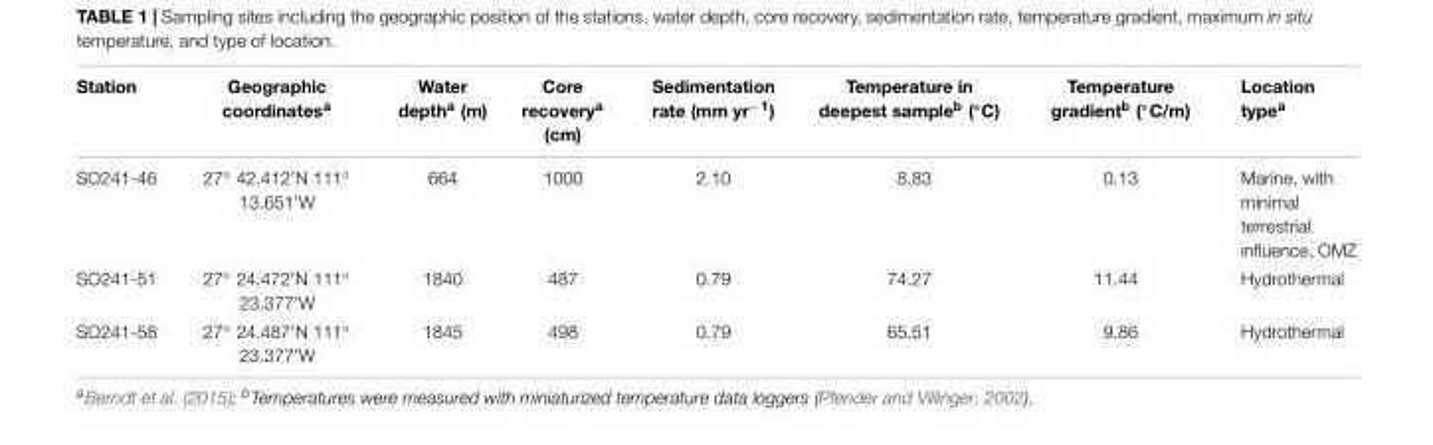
<table><thead><tr><td>Station</td><td>Geographic coordinates<sup>a</sup></td><td>Water depth<sup>a</sup> (m)</td><td>Core recovery<sup>a</sup> (cm)</td><td>Sedimentation rate (mm yr<sup>−1</sup>)</td><td>Temperature in deepest sampleb (◦C)</td><td>Temperature gradientb (◦C/m)</td><td>Location type<sup>a</sup></td></tr></thead><tbody><tr><td>SO241-46</td><td>27◦ 42.412′N 111◦ 13.651′W</td><td>664</td><td>1000</td><td>2.10</td><td>8.83</td><td>0.13</td><td>Marine, with minimal terrestrial influence, OMZ</td></tr><tr><td>SO241-51</td><td>27◦ 24.472′N 111◦ 23.377′W</td><td>1840</td><td>487</td><td>0.79</td><td>74.27</td><td>11.44</td><td>Hydrothermal</td></tr><tr><td>SO241-58</td><td>27◦ 24.487′N 111◦ 23.377′W</td><td>1845</td><td>498</td><td>0.79</td><td>65.51</td><td>9.86</td><td>Hydrothermal</td></tr></tbody></table>